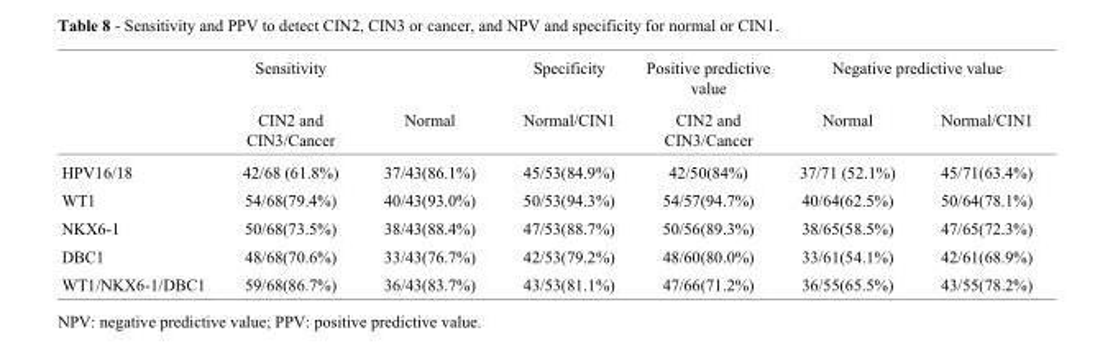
<table><thead><tr><td rowspan="2"></td><td rowspan="2">Sensitivity CIN2 and CIN3/Cancer</td><td rowspan="2">Normal</td><td rowspan="2">Specificity Normal/CIN1</td><td rowspan="2">Positive predictive value CIN2 and CIN3/Cancer</td><td colspan="2">Negative predictive value</td></tr><tr><td>Normal</td><td>Normal/CIN1</td></tr></thead><tbody><tr><td>HPV16/18</td><td>42/68 (61.8%)</td><td>37/43(86.1%)</td><td>45/53(84.9%)</td><td>42/50(84%)</td><td>37/71 (52.1%)</td><td>45/71(63.4%)</td></tr><tr><td>WT1</td><td>54/68(79.4%)</td><td>40/43(93.0%)</td><td>50/53(94.3%)</td><td>54/57(94.7%)</td><td>40/64(62.5%)</td><td>50/64(78.1%)</td></tr><tr><td>NKX6-1</td><td>50/68(73.5%)</td><td>38/43(88.4%)</td><td>47/53(88.7%)</td><td>50/56(89.3%)</td><td>38/65(58.5%)</td><td>47/65(72.3%)</td></tr><tr><td>DBC1</td><td>48/68(70.6%)</td><td>33/43(76.7%)</td><td>42/53(79.2%)</td><td>48/60(80.0%)</td><td>33/61(54.1%)</td><td>42/61(68.9%)</td></tr><tr><td>WT1/NKX6-1/DBC1</td><td>59/68(86.7%)</td><td>36/43(83.7%)</td><td>43/53(81.1%)</td><td>47/66(71.2%)</td><td>36/55(65.5%)</td><td>43/55(78.2%)</td></tr></tbody></table>